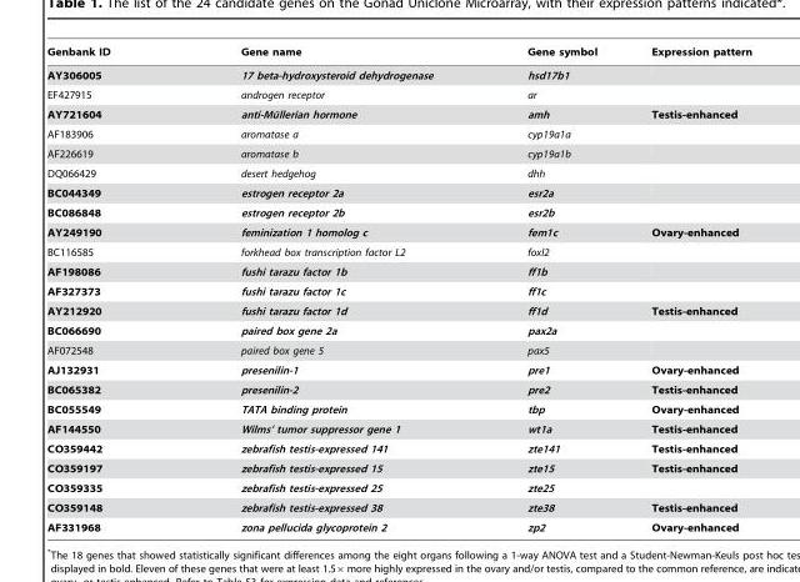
<table><thead><tr><td>Genbank ID</td><td>Gene name</td><td>Gene symbol</td><td>Expression pattern</td></tr></thead><tbody><tr><td>AY306005</td><td>17 beta-hydroxysteroid dehydrogenase</td><td>hsd17b1</td><td></td></tr><tr><td>EF427915</td><td>androgen receptor</td><td>ar</td><td></td></tr><tr><td>AY721604</td><td>anti-Mu¨llerian hormone</td><td>amh</td><td>Testis-enhanced</td></tr><tr><td>AF183906</td><td>aromatase a</td><td>cyp19a1a</td><td></td></tr><tr><td>AF226619</td><td>aromatase b</td><td>cyp19a1b</td><td></td></tr><tr><td>DQ066429</td><td>desert hedgehog</td><td>dhh</td><td></td></tr><tr><td>BC044349</td><td>estrogen receptor 2a</td><td>esr2a</td><td></td></tr><tr><td>BC086848</td><td>estrogen receptor 2b</td><td>esr2b</td><td></td></tr><tr><td>AY249190</td><td>feminization 1 homolog c</td><td>fem1c</td><td>Ovary-enhanced</td></tr><tr><td>BC116585</td><td>forkhead box transcription factor L2</td><td>foxl2</td><td></td></tr><tr><td>AF198086</td><td>fushi tarazu factor 1b</td><td>ff1b</td><td></td></tr><tr><td>AF327373</td><td>fushi tarazu factor 1c</td><td>ff1c</td><td></td></tr><tr><td>AY212920</td><td>fushi tarazu factor 1d</td><td>ff1d</td><td>Testis-enhanced</td></tr><tr><td>BC066690</td><td>paired box gene 2a</td><td>pax2a</td><td></td></tr><tr><td>AF072548</td><td>paired box gene 5</td><td>pax5</td><td></td></tr><tr><td>AJ132931</td><td>presenilin-1</td><td>pre1</td><td>Ovary-enhanced</td></tr><tr><td>BC065382</td><td>presenilin-2</td><td>pre2</td><td>Testis-enhanced</td></tr><tr><td>BC055549</td><td>TATA binding protein</td><td>tbp</td><td>Ovary-enhanced</td></tr><tr><td>AF144550</td><td>Wilms’ tumor suppressor gene 1</td><td>wt1a</td><td>Testis-enhanced</td></tr><tr><td>CO359442</td><td>zebrafish testis-expressed 141</td><td>zte141</td><td>Testis-enhanced</td></tr><tr><td>CO359197</td><td>zebrafish testis-expressed 15</td><td>zte15</td><td>Testis-enhanced</td></tr><tr><td>CO359335</td><td>zebrafish testis-expressed 25</td><td>zte25</td><td></td></tr><tr><td>CO359148</td><td>zebrafish testis-expressed 38</td><td>zte38</td><td>Testis-enhanced</td></tr><tr><td>AF331968</td><td>zona pellucida glycoprotein 2</td><td>zp2</td><td>Ovary-enhanced</td></tr></tbody></table>